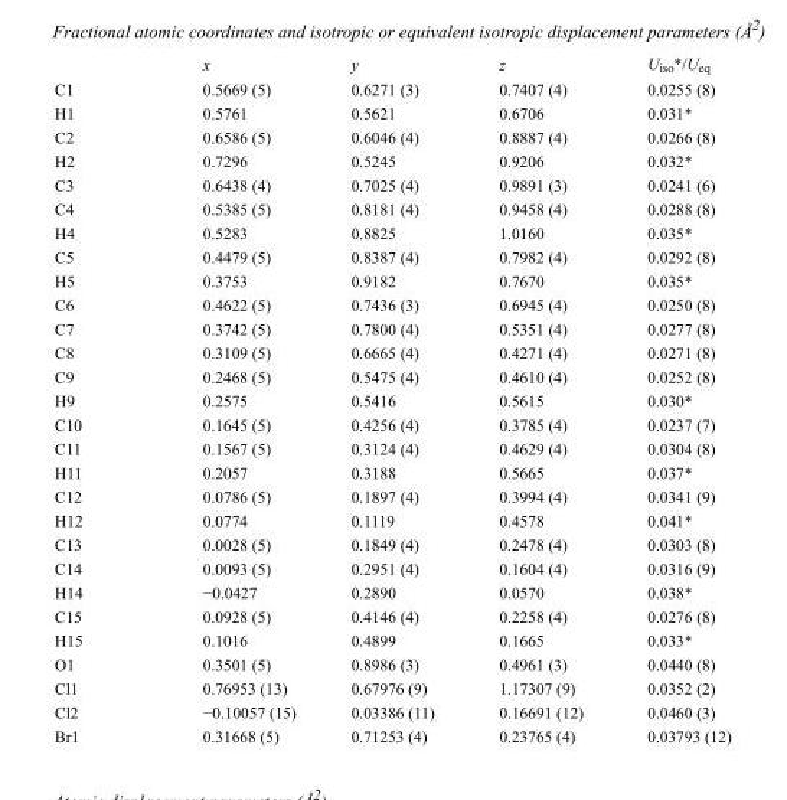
<table><thead><tr><td></td><td>x</td><td>y</td><td>z</td><td>U<sub>iso</sub>*/U<sub>eq</sub></td></tr></thead><tbody><tr><td>C1</td><td>0.5669 (5)</td><td>0.6271 (3)</td><td>0.7407 (4)</td><td>0.0255 (8)</td></tr><tr><td>H1</td><td>0.5761</td><td>0.5621</td><td>0.6706</td><td>0.031*</td></tr><tr><td>C2</td><td>0.6586 (5)</td><td>0.6046 (4)</td><td>0.8887 (4)</td><td>0.0266 (8)</td></tr><tr><td>H2</td><td>0.7296</td><td>0.5245</td><td>0.9206</td><td>0.032*</td></tr><tr><td>C3</td><td>0.6438 (4)</td><td>0.7025 (4)</td><td>0.9891 (3)</td><td>0.0241 (6)</td></tr><tr><td>C4</td><td>0.5385 (5)</td><td>0.8181 (4)</td><td>0.9458 (4)</td><td>0.0288 (8)</td></tr><tr><td>H4</td><td>0.5283</td><td>0.8825</td><td>1.0160</td><td>0.035*</td></tr><tr><td>C5</td><td>0.4479 (5)</td><td>0.8387 (4)</td><td>0.7982 (4)</td><td>0.0292 (8)</td></tr><tr><td>H5</td><td>0.3753</td><td>0.9182</td><td>0.7670</td><td>0.035*</td></tr><tr><td>C6</td><td>0.4622 (5)</td><td>0.7436 (3)</td><td>0.6945 (4)</td><td>0.0250 (8)</td></tr><tr><td>C7</td><td>0.3742 (5)</td><td>0.7800 (4)</td><td>0.5351 (4)</td><td>0.0277 (8)</td></tr><tr><td>C8</td><td>0.3109 (5)</td><td>0.6665 (4)</td><td>0.4271 (4)</td><td>0.0271 (8)</td></tr><tr><td>C9</td><td>0.2468 (5)</td><td>0.5475 (4)</td><td>0.4610 (4)</td><td>0.0252 (8)</td></tr><tr><td>H9</td><td>0.2575</td><td>0.5416</td><td>0.5615</td><td>0.030*</td></tr><tr><td>C10</td><td>0.1645 (5)</td><td>0.4256 (4)</td><td>0.3785 (4)</td><td>0.0237 (7)</td></tr><tr><td>C11</td><td>0.1567 (5)</td><td>0.3124 (4)</td><td>0.4629 (4)</td><td>0.0304 (8)</td></tr><tr><td>H11</td><td>0.2057</td><td>0.3188</td><td>0.5665</td><td>0.037*</td></tr><tr><td>C12</td><td>0.0786 (5)</td><td>0.1897 (4)</td><td>0.3994 (4)</td><td>0.0341 (9)</td></tr><tr><td>H12</td><td>0.0774</td><td>0.1119</td><td>0.4578</td><td>0.041*</td></tr><tr><td>C13</td><td>0.0028 (5)</td><td>0.1849 (4)</td><td>0.2478 (4)</td><td>0.0303 (8)</td></tr><tr><td>C14</td><td>0.0093 (5)</td><td>0.2951 (4)</td><td>0.1604 (4)</td><td>0.0316 (9)</td></tr><tr><td>H14</td><td>−0.0427</td><td>0.2890</td><td>0.0570</td><td>0.038*</td></tr><tr><td>C15</td><td>0.0928 (5)</td><td>0.4146 (4)</td><td>0.2258 (4)</td><td>0.0276 (8)</td></tr><tr><td>H15</td><td>0.1016</td><td>0.4899</td><td>0.1665</td><td>0.033*</td></tr><tr><td>O1</td><td>0.3501 (5)</td><td>0.8986 (3)</td><td>0.4961 (3)</td><td>0.0440 (8)</td></tr><tr><td>Cl1</td><td>0.76953 (13)</td><td>0.67976 (9)</td><td>1.17307 (9)</td><td>0.0352 (2)</td></tr><tr><td>Cl2</td><td>−0.10057 (15)</td><td>0.03386 (11)</td><td>0.16691 (12)</td><td>0.0460 (3)</td></tr><tr><td>Br1</td><td>0.31668 (5)</td><td>0.71253 (4)</td><td>0.23765 (4)</td><td>0.03793 (12)</td></tr></tbody></table>